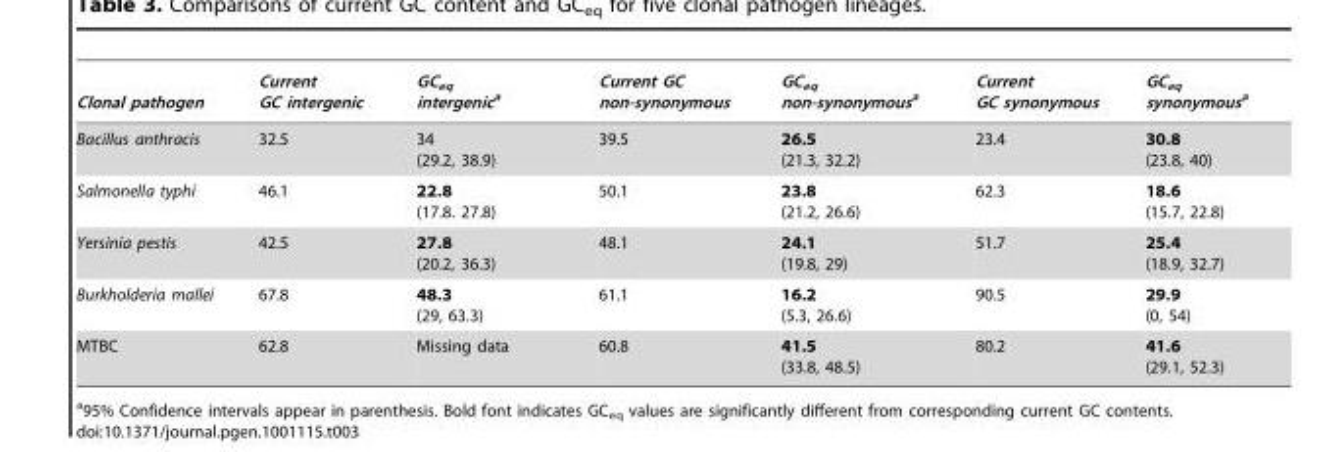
<table><thead><tr><td>Clonal pathogen</td><td>Current GC intergenic</td><td>GC<sub>eq</sub> intergenica</td><td>Current GC non-synonymous</td><td>GC<sub>eq</sub> non-synonymousa</td><td>Current GC synonymous</td><td>GC<sub>eq</sub> synonymousa</td></tr></thead><tbody><tr><td>Bacillus anthracis</td><td>32.5</td><td>34 (29.2, 38.9)</td><td>39.5</td><td>26.5 (21.3, 32.2)</td><td>23.4</td><td>30.8 (23.8, 40)</td></tr><tr><td>Salmonella typhi</td><td>46.1</td><td>22.8 (17.8. 27.8)</td><td>50.1</td><td>23.8 (21.2, 26.6)</td><td>62.3</td><td>18.6 (15.7, 22.8)</td></tr><tr><td>Yersinia pestis</td><td>42.5</td><td>27.8 (20.2, 36.3)</td><td>48.1</td><td>24.1 (19.8, 29)</td><td>51.7</td><td>25.4 (18.9, 32.7)</td></tr><tr><td>Burkholderia mallei</td><td>67.8</td><td>48.3 (29, 63.3)</td><td>61.1</td><td>16.2 (5.3, 26.6)</td><td>90.5</td><td>29.9 (0, 54)</td></tr><tr><td>MTBC</td><td>62.8</td><td>Missing data</td><td>60.8</td><td>41.5 (33.8, 48.5)</td><td>80.2</td><td>41.6 (29.1, 52.3)</td></tr></tbody></table>